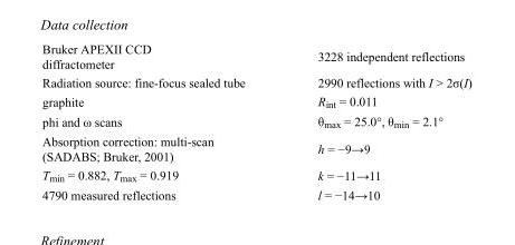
<table><tbody><tr><td>Bruker APEXII CCD diffractometer</td><td>3228 independent reflections</td></tr><tr><td>Radiation source: fine-focus sealed tube</td><td>2990 reflections with I &gt; 2σ(I)</td></tr><tr><td>graphite</td><td>R<sub>int</sub> = 0.011</td></tr><tr><td>phi and ω scans</td><td>θ<sub>max</sub> = 25.0°, θ<sub>min</sub> = 2.1°</td></tr><tr><td>Absorption correction: multi-scan (SADABS; Bruker, 2001)</td><td>h = −9→9</td></tr><tr><td>T<sub>min</sub> = 0.882, T<sub>max</sub> = 0.919</td><td>k = −11→11</td></tr><tr><td>4790 measured reflections</td><td>l = −14→10</td></tr></tbody></table>